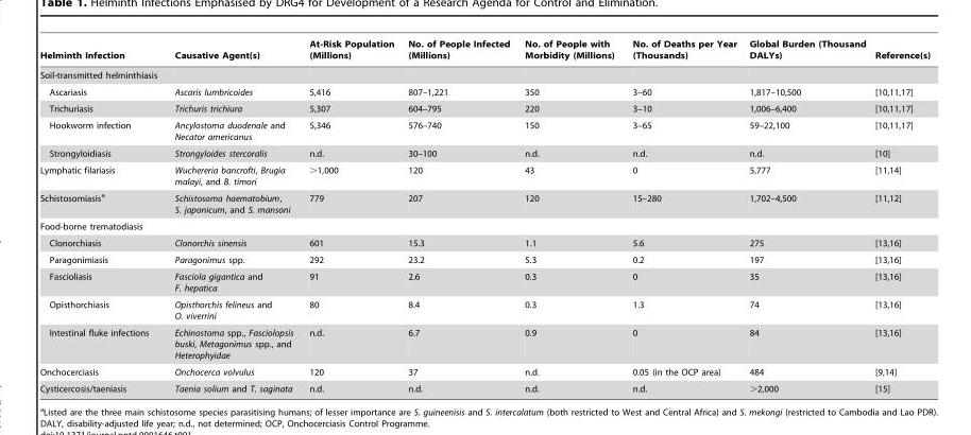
<table><thead><tr><td>Helminth Infection</td><td>Causative Agent(s)</td><td>At-Risk Population (Millions)</td><td>No. of People Infected (Millions)</td><td>No. of People with Morbidity (Millions)</td><td>No. of Deaths per Year (Thousands)</td><td>Global Burden (Thousand DALYs)</td><td>Reference(s)</td></tr></thead><tbody><tr><td colspan="8">Soil-transmitted helminthiasis</td></tr><tr><td>Ascariasis</td><td>Ascaris lumbricoides</td><td>5,416</td><td>807–1,221</td><td>350</td><td>3–60</td><td>1,817–10,500</td><td>[10,11,17]</td></tr><tr><td>Trichuriasis</td><td>Trichuris trichiura</td><td>5,307</td><td>604–795</td><td>220</td><td>3–10</td><td>1,006–6,400</td><td>[10,11,17]</td></tr><tr><td>Hookworm infection</td><td>Ancylostoma duodenale and Necator americanus</td><td>5,346</td><td>576–740</td><td>150</td><td>3–65</td><td>59–22,100</td><td>[10,11,17]</td></tr><tr><td>Strongyloidiasis</td><td>Strongyloides stercoralis</td><td>n.d.</td><td>30–100</td><td>n.d.</td><td>n.d.</td><td>n.d.</td><td>[10]</td></tr><tr><td>Lymphatic filariasis</td><td>Wuchereria bancrofti, Brugia malayi, and B. timori</td><td>&gt;1,000</td><td>120</td><td>43</td><td>0</td><td>5,777</td><td>[11,14]</td></tr><tr><td>Schistosomiasis<sup>a</sup></td><td>Schistosoma haematobium, S. japonicum, and S. mansoni</td><td>779</td><td>207</td><td>120</td><td>15–280</td><td>1,702–4,500</td><td>[11,12]</td></tr><tr><td colspan="8">Food-borne trematodiasis</td></tr><tr><td>Clonorchiasis</td><td>Clonorchis sinensis</td><td>601</td><td>15.3</td><td>1.1</td><td>5.6</td><td>275</td><td>[13,16]</td></tr><tr><td>Paragonimiasis</td><td>Paragonimus spp.</td><td>292</td><td>23.2</td><td>5.3</td><td>0.2</td><td>197</td><td>[13,16]</td></tr><tr><td>Fascioliasis</td><td>Fasciola gigantica and F. hepatica</td><td>91</td><td>2.6</td><td>0.3</td><td>0</td><td>35</td><td>[13,16]</td></tr><tr><td>Opisthorchiasis</td><td>Opisthorchis felineus and O. viverrini</td><td>80</td><td>8.4</td><td>0.3</td><td>1.3</td><td>74</td><td>[13,16]</td></tr><tr><td>Intestinal fluke infections</td><td>Echinostoma spp., Fasciolopsis buski, Metagonimus spp., and Heterophyidae</td><td>n.d.</td><td>6.7</td><td>0.9</td><td>0</td><td>84</td><td>[13,16]</td></tr><tr><td>Onchocerciasis</td><td>Onchocerca volvulus</td><td>120</td><td>37</td><td>n.d.</td><td>0.05 (in the OCP area)</td><td>484</td><td>[9,14]</td></tr><tr><td>Cysticercosis/taeniasis</td><td>Taenia solium and T. saginata</td><td>n.d.</td><td>n.d.</td><td>n.d.</td><td>n.d.</td><td>&gt;2,000</td><td>[15]</td></tr></tbody></table>